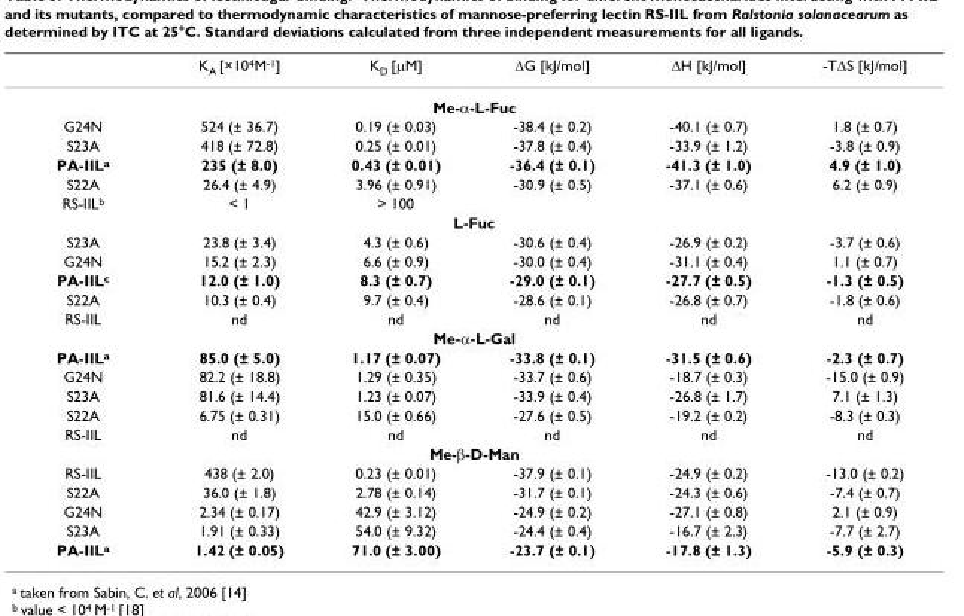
<table><thead><tr><td></td><td>K<sub>A</sub> [×10<sup>4</sup>M<sup>-1</sup>]</td><td>K<sub>D</sub> [μM]</td><td>ΔG [kJ/mol]</td><td>ΔH [kJ/mol]</td><td>-TΔS [kJ/mol]</td></tr></thead><tbody><tr><td colspan="6">Me-α-L-Fuc</td></tr><tr><td>G24N</td><td>524 (± 36.7)</td><td>0.19 (± 0.03)</td><td>-38.4 (± 0.2)</td><td>-40.1 (± 0.7)</td><td>1.8 (± 0.7)</td></tr><tr><td>S23A</td><td>418 (± 72.8)</td><td>0.25 (± 0.01)</td><td>-37.8 (± 0.4)</td><td>-33.9 (± 1.2)</td><td>-3.8 (± 0.9)</td></tr><tr><td>PA-IIL<sup>a</sup></td><td>235 (± 8.0)</td><td>0.43 (± 0.01)</td><td>-36.4 (± 0.1)</td><td>-41.3 (± 1.0)</td><td>4.9 (± 1.0)</td></tr><tr><td>S22A</td><td>26.4 (± 4.9)</td><td>3.96 (± 0.91)</td><td>-30.9 (± 0.5)</td><td>-37.1 (± 0.6)</td><td>6.2 (± 0.9)</td></tr><tr><td>RS-IIL<sup>b</sup></td><td>&lt; 1</td><td>&gt; 100</td><td></td><td></td><td></td></tr><tr><td colspan="6">L-Fuc</td></tr><tr><td>S23A</td><td>23.8 (± 3.4)</td><td>4.3 (± 0.6)</td><td>-30.6 (± 0.4)</td><td>-26.9 (± 0.2)</td><td>-3.7 (± 0.6)</td></tr><tr><td>G24N</td><td>15.2 (± 2.3)</td><td>6.6 (± 0.9)</td><td>-30.0 (± 0.4)</td><td>-31.1 (± 0.4)</td><td>1.1 (± 0.7)</td></tr><tr><td>PA-IIL<sup>c</sup></td><td>12.0 (± 1.0)</td><td>8.3 (± 0.7)</td><td>-29.0 (± 0.1)</td><td>-27.7 (± 0.5)</td><td>-1.3 (± 0.5)</td></tr><tr><td>S22A</td><td>10.3 (± 0.4)</td><td>9.7 (± 0.4)</td><td>-28.6 (± 0.1)</td><td>-26.8 (± 0.7)</td><td>-1.8 (± 0.6)</td></tr><tr><td>RS-IIL</td><td>nd</td><td>nd</td><td>nd</td><td>nd</td><td>nd</td></tr><tr><td colspan="6">Me-α-L-Gal</td></tr><tr><td>PA-IIL<sup>a</sup></td><td>85.0 (± 5.0)</td><td>1.17 (± 0.07)</td><td>-33.8 (± 0.1)</td><td>-31.5 (± 0.6)</td><td>-2.3 (± 0.7)</td></tr><tr><td>G24N</td><td>82.2 (± 18.8)</td><td>1.29 (± 0.35)</td><td>-33.7 (± 0.6)</td><td>-18.7 (± 0.3)</td><td>-15.0 (± 0.9)</td></tr><tr><td>S23A</td><td>81.6 (± 14.4)</td><td>1.23 (± 0.07)</td><td>-33.9 (± 0.4)</td><td>-26.8 (± 1.7)</td><td>7.1 (± 1.3)</td></tr><tr><td>S22A</td><td>6.75 (± 0.31)</td><td>15.0 (± 0.66)</td><td>-27.6 (± 0.5)</td><td>-19.2 (± 0.2)</td><td>-8.3 (± 0.3)</td></tr><tr><td>RS-IIL</td><td>nd</td><td>nd</td><td>nd</td><td>nd</td><td>nd</td></tr><tr><td colspan="6">Me-β-D-Man</td></tr><tr><td>RS-IIL</td><td>438 (± 2.0)</td><td>0.23 (± 0.01)</td><td>-37.9 (± 0.1)</td><td>-24.9 (± 0.2)</td><td>-13.0 (± 0.2)</td></tr><tr><td>S22A</td><td>36.0 (± 1.8)</td><td>2.78 (± 0.14)</td><td>-31.7 (± 0.1)</td><td>-24.3 (± 0.6)</td><td>-7.4 (± 0.7)</td></tr><tr><td>G24N</td><td>2.34 (± 0.17)</td><td>42.9 (± 3.12)</td><td>-24.9 (± 0.2)</td><td>-27.1 (± 0.8)</td><td>2.1 (± 0.9)</td></tr><tr><td>S23A</td><td>1.91 (± 0.33)</td><td>54.0 (± 9.32)</td><td>-24.4 (± 0.4)</td><td>-16.7 (± 2.3)</td><td>-7.7 (± 2.7)</td></tr><tr><td>PA-IIL<sup>a</sup></td><td>1.42 (± 0.05)</td><td>71.0 (± 3.00)</td><td>-23.7 (± 0.1)</td><td>-17.8 (± 1.3)</td><td>-5.9 (± 0.3)</td></tr></tbody></table>